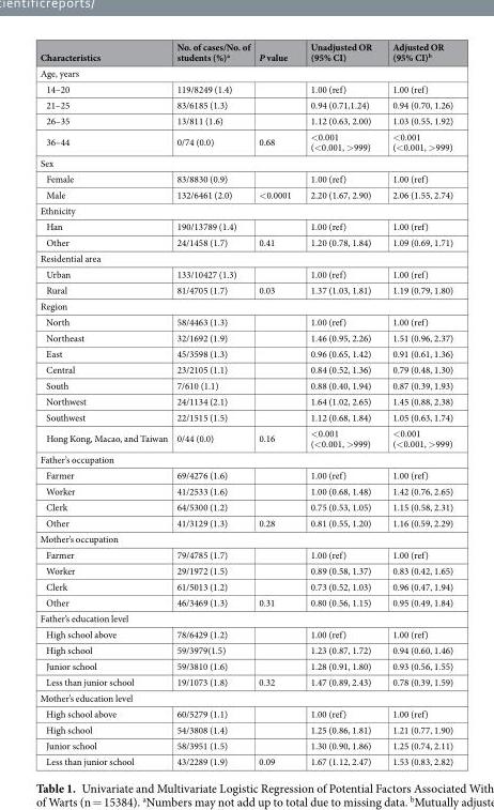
<table><thead><tr><td>Characteristics</td><td>No. of cases/No. of students (%)<sup>a</sup></td><td>P value</td><td>Unadjusted OR (95% CI)</td><td>Adjusted OR (95% CI)<sup>b</sup></td></tr></thead><tbody><tr><td colspan="5">Age, years</td></tr><tr><td>14–20</td><td>119/8249 (1.4)</td><td></td><td>1.00 (ref)</td><td>1.00 (ref)</td></tr><tr><td>21–25</td><td>83/6185 (1.3)</td><td></td><td>0.94 (0.71,1.24)</td><td>0.94 (0.70, 1.26)</td></tr><tr><td>26–35</td><td>13/811 (1.6)</td><td></td><td>1.12 (0.63, 2.00)</td><td>1.03 (0.55, 1.92)</td></tr><tr><td>36–44</td><td>0/74 (0.0)</td><td>0.68</td><td>&lt;0.001 (&lt;0.001, &gt;999)</td><td>&lt;0.001 (&lt;0.001, &gt;999)</td></tr><tr><td colspan="5">Sex</td></tr><tr><td>Female</td><td>83/8830 (0.9)</td><td></td><td>1.00 (ref)</td><td>1.00 (ref)</td></tr><tr><td>Male</td><td>132/6461 (2.0)</td><td>&lt;0.0001</td><td>2.20 (1.67, 2.90)</td><td>2.06 (1.55, 2.74)</td></tr><tr><td colspan="5">Ethnicity</td></tr><tr><td>Han</td><td>190/13789 (1.4)</td><td></td><td>1.00 (ref)</td><td>1.00 (ref)</td></tr><tr><td>Other</td><td>24/1458 (1.7)</td><td>0.41</td><td>1.20 (0.78, 1.84)</td><td>1.09 (0.69, 1.71)</td></tr><tr><td colspan="5">Residential area</td></tr><tr><td>Urban</td><td>133/10427 (1.3)</td><td></td><td>1.00 (ref)</td><td>1.00 (ref)</td></tr><tr><td>Rural</td><td>81/4705 (1.7)</td><td>0.03</td><td>1.37 (1.03, 1.81)</td><td>1.19 (0.79, 1.80)</td></tr><tr><td colspan="5">Region</td></tr><tr><td>North</td><td>58/4463 (1.3)</td><td></td><td>1.00 (ref)</td><td>1.00 (ref)</td></tr><tr><td>Northeast</td><td>32/1692 (1.9)</td><td></td><td>1.46 (0.95, 2.26)</td><td>1.51 (0.96, 2.37)</td></tr><tr><td>East</td><td>45/3598 (1.3)</td><td></td><td>0.96 (0.65, 1.42)</td><td>0.91 (0.61, 1.36)</td></tr><tr><td>Central</td><td>23/2105 (1.1)</td><td></td><td>0.84 (0.52, 1.36)</td><td>0.79 (0.48, 1.30)</td></tr><tr><td>South</td><td>7/610 (1.1)</td><td></td><td>0.88 (0.40, 1.94)</td><td>0.87 (0.39, 1.93)</td></tr><tr><td>Northwest</td><td>24/1134 (2.1)</td><td></td><td>1.64 (1.02, 2.65)</td><td>1.45 (0.88, 2.38)</td></tr><tr><td>Southwest</td><td>22/1515 (1.5)</td><td></td><td>1.12 (0.68, 1.84)</td><td>1.05 (0.63, 1.74)</td></tr><tr><td>Hong Kong, Macao, and Taiwan</td><td>0/44 (0.0)</td><td>0.16</td><td>&lt;0.001 (&lt;0.001, &gt;999)</td><td>&lt;0.001 (&lt;0.001, &gt;999)</td></tr><tr><td colspan="5">Father’s occupation</td></tr><tr><td>Farmer</td><td>69/4276 (1.6)</td><td></td><td>1.00 (ref)</td><td>1.00 (ref)</td></tr><tr><td>Worker</td><td>41/2533 (1.6)</td><td></td><td>1.00 (0.68, 1.48)</td><td>1.42 (0.76, 2.65)</td></tr><tr><td>Clerk</td><td>64/5300 (1.2)</td><td></td><td>0.75 (0.53, 1.05)</td><td>1.15 (0.58, 2.31)</td></tr><tr><td>Other</td><td>41/3129 (1.3)</td><td>0.28</td><td>0.81 (0.55, 1.20)</td><td>1.16 (0.59, 2.29)</td></tr><tr><td colspan="5">Mother’s occupation</td></tr><tr><td>Farmer</td><td>79/4785 (1.7)</td><td></td><td>1.00 (ref)</td><td>1.00 (ref)</td></tr><tr><td>Worker</td><td>29/1972 (1.5)</td><td></td><td>0.89 (0.58, 1.37)</td><td>0.83 (0.42, 1.65)</td></tr><tr><td>Clerk</td><td>61/5013 (1.2)</td><td></td><td>0.73 (0.52, 1.03)</td><td>0.96 (0.47, 1.94)</td></tr><tr><td>Other</td><td>46/3469 (1.3)</td><td>0.31</td><td>0.80 (0.56, 1.15)</td><td>0.95 (0.49, 1.84)</td></tr><tr><td colspan="5">Father’s education level</td></tr><tr><td>High school above</td><td>78/6429 (1.2)</td><td></td><td>1.00 (ref)</td><td>1.00 (ref)</td></tr><tr><td>High school</td><td>59/3979(1.5)</td><td></td><td>1.23 (0.87, 1.72)</td><td>0.94 (0.60, 1.46)</td></tr><tr><td>Junior school</td><td>59/3810 (1.6)</td><td></td><td>1.28 (0.91, 1.80)</td><td>0.93 (0.56, 1.55)</td></tr><tr><td>Less than junior school</td><td>19/1073 (1.8)</td><td>0.32</td><td>1.47 (0.89, 2.43)</td><td>0.78 (0.39, 1.59)</td></tr><tr><td colspan="5">Mother’s education level</td></tr><tr><td>High school above</td><td>60/5279 (1.1)</td><td></td><td>1.00 (ref)</td><td>1.00 (ref)</td></tr><tr><td>High school</td><td>54/3808 (1.4)</td><td></td><td>1.25 (0.86, 1.81)</td><td>1.21 (0.77, 1.90)</td></tr><tr><td>Junior school</td><td>58/3951 (1.5)</td><td></td><td>1.30 (0.90, 1.86)</td><td>1.25 (0.74, 2.11)</td></tr><tr><td>Less than junior school</td><td>43/2289 (1.9)</td><td>0.09</td><td>1.67 (1.12, 2.47)</td><td>1.53 (0.83, 2.82)</td></tr></tbody></table>